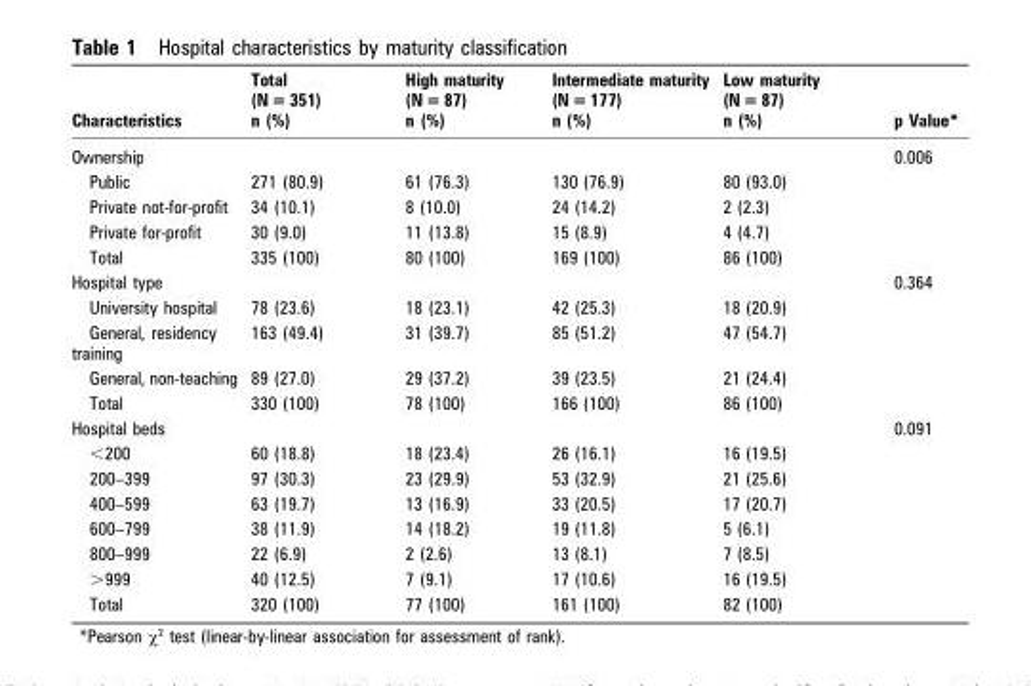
<table><thead><tr><td>Characteristics</td><td>Total (N = 351) n (%)</td><td>High maturity (N = 87) n (%)</td><td>Intermediate maturity (N = 177) n (%)</td><td>Low maturity (N = 87) n (%)</td><td>p Value*</td></tr></thead><tbody><tr><td colspan="5">Ownership</td><td rowspan="5">0.006</td></tr><tr><td>Public</td><td>271 (80.9)</td><td>61 (76.3)</td><td>130 (76.9)</td><td>80 (93.0)</td></tr><tr><td>Private not-for-profit</td><td>34 (10.1)</td><td>8 (10.0)</td><td>24 (14.2)</td><td>2 (2.3)</td></tr><tr><td>Private for-profit</td><td>30 (9.0)</td><td>11 (13.8)</td><td>15 (8.9)</td><td>4 (4.7)</td></tr><tr><td>Total</td><td>335 (100)</td><td>80 (100)</td><td>169 (100)</td><td>86 (100)</td></tr><tr><td colspan="5">Hospital type</td><td rowspan="5">0.364</td></tr><tr><td>University hospital</td><td>78 (23.6)</td><td>18 (23.1)</td><td>42 (25.3)</td><td>18 (20.9)</td></tr><tr><td>General, residency training</td><td>163 (49.4)</td><td>31 (39.7)</td><td>85 (51.2)</td><td>47 (54.7)</td></tr><tr><td>General, non-teaching</td><td>89 (27.0)</td><td>29 (37.2)</td><td>39 (23.5)</td><td>21 (24.4)</td></tr><tr><td>Total</td><td>330 (100)</td><td>78 (100)</td><td>166 (100)</td><td>86 (100)</td></tr><tr><td colspan="5">Hospital beds</td><td rowspan="8">0.091</td></tr><tr><td>&lt;200</td><td>60 (18.8)</td><td>18 (23.4)</td><td>26 (16.1)</td><td>16 (19.5)</td></tr><tr><td>200–399</td><td>97 (30.3)</td><td>23 (29.9)</td><td>53 (32.9)</td><td>21 (25.6)</td></tr><tr><td>400–599</td><td>63 (19.7)</td><td>13 (16.9)</td><td>33 (20.5)</td><td>17 (20.7)</td></tr><tr><td>600–799</td><td>38 (11.9)</td><td>14 (18.2)</td><td>19 (11.8)</td><td>5 (6.1)</td></tr><tr><td>800–999</td><td>22 (6.9)</td><td>2 (2.6)</td><td>13 (8.1)</td><td>7 (8.5)</td></tr><tr><td>&gt;999</td><td>40 (12.5)</td><td>7 (9.1)</td><td>17 (10.6)</td><td>16 (19.5)</td></tr><tr><td>Total</td><td>320 (100)</td><td>77 (100)</td><td>161 (100)</td><td>82 (100)</td></tr></tbody></table>